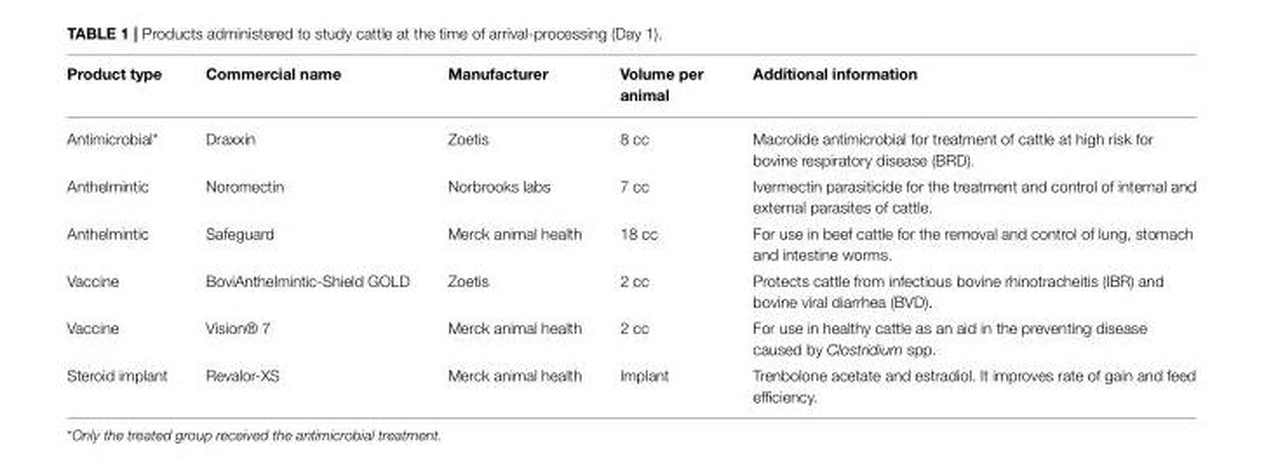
<table><thead><tr><td>Product type</td><td>Commercial name</td><td>Manufacturer</td><td>Volume per animal</td><td>Additional information</td></tr></thead><tbody><tr><td>Antimicrobial*</td><td>Draxxin</td><td>Zoetis</td><td>8 cc</td><td>Macrolide antimicrobial for treatment of cattle at high risk for bovine respiratory disease (BRD).</td></tr><tr><td>Anthelmintic</td><td>Noromectin</td><td>Norbrooks labs</td><td>7 cc</td><td>Ivermectin parasiticide for the treatment and control of internal and external parasites of cattle.</td></tr><tr><td>Anthelmintic</td><td>Safeguard</td><td>Merck animal health</td><td>18 cc</td><td>For use in beef cattle for the removal and control of lung, stomach and intestine worms.</td></tr><tr><td>Vaccine</td><td>BoviAnthelmintic-Shield GOLD</td><td>Zoetis</td><td>2 cc</td><td>Protects cattle from infectious bovine rhinotracheitis (IBR) and bovine viral diarrhea (BVD).</td></tr><tr><td>Vaccine</td><td>Vision® 7</td><td>Merck animal health</td><td>2 cc</td><td>For use in healthy cattle as an aid in the preventing disease caused by Clostridium spp.</td></tr><tr><td>Steroid implant</td><td>Revalor-XS</td><td>Merck animal health</td><td>Implant</td><td>Trenbolone acetate and estradiol. It improves rate of gain and feed efficiency.</td></tr></tbody></table>